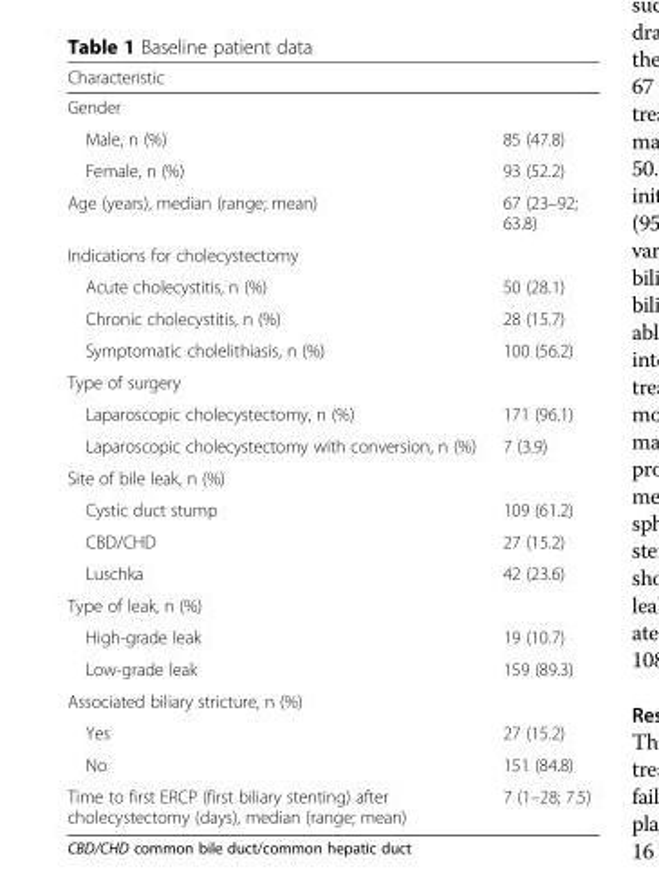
<table><thead><tr><td>Characteristic</td><td></td></tr></thead><tbody><tr><td colspan="2">Gender</td></tr><tr><td>Male, n (%)</td><td>85 (47.8)</td></tr><tr><td>Female, n (%)</td><td>93 (52.2)</td></tr><tr><td>Age (years), median (range; mean)</td><td>67 (23–92; 63.8)</td></tr><tr><td colspan="2">Indications for cholecystectomy</td></tr><tr><td>Acute cholecystitis, n (%)</td><td>50 (28.1)</td></tr><tr><td>Chronic cholecystitis, n (%)</td><td>28 (15.7)</td></tr><tr><td>Symptomatic cholelithiasis, n (%)</td><td>100 (56.2)</td></tr><tr><td colspan="2">Type of surgery</td></tr><tr><td>Laparoscopic cholecystectomy, n (%)</td><td>171 (96.1)</td></tr><tr><td>Laparoscopic cholecystectomy with conversion, n (%)</td><td>7 (3.9)</td></tr><tr><td colspan="2">Site of bile leak, n (%)</td></tr><tr><td>Cystic duct stump</td><td>109 (61.2)</td></tr><tr><td>CBD/CHD</td><td>27 (15.2)</td></tr><tr><td>Luschka</td><td>42 (23.6)</td></tr><tr><td colspan="2">Type of leak, n (%)</td></tr><tr><td>High-grade leak</td><td>19 (10.7)</td></tr><tr><td>Low-grade leak</td><td>159 (89.3)</td></tr><tr><td colspan="2">Associated biliary stricture, n (%)</td></tr><tr><td>Yes</td><td>27 (15.2)</td></tr><tr><td>No</td><td>151 (84.8)</td></tr><tr><td>Time to first ERCP (first biliary stenting) after cholecystectomy (days), median (range; mean)</td><td>7 (1–28; 7.5)</td></tr></tbody></table>